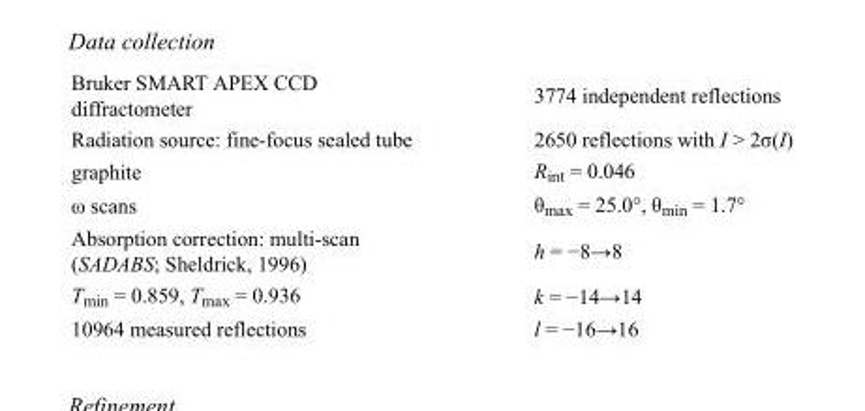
<table><tbody><tr><td>Bruker SMART APEX CCD diffractometer</td><td>3774 independent reflections</td></tr><tr><td>Radiation source: fine-focus sealed tube</td><td>2650 reflections with I &gt; 2σ(I)</td></tr><tr><td>graphite</td><td>R<sub>int</sub> = 0.046</td></tr><tr><td>ω scans</td><td>θ<sub>max</sub> = 25.0°, θ<sub>min</sub> = 1.7°</td></tr><tr><td>Absorption correction: multi-scan (SADABS; Sheldrick, 1996)</td><td>h = −8→8</td></tr><tr><td>T<sub>min</sub> = 0.859, T<sub>max</sub> = 0.936</td><td>k = −14→14</td></tr><tr><td>10964 measured reflections</td><td>l = −16→16</td></tr></tbody></table>